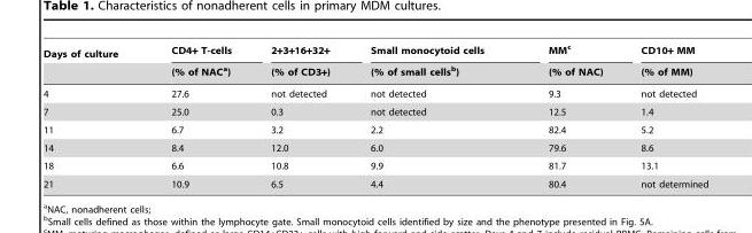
<table><thead><tr><td rowspan="2">Days of culture</td><td rowspan="2">CD4+ T-cells (% of NAC<sup>a</sup>)</td><td rowspan="2">2+3+16+32+ (% of CD3+)</td><td rowspan="2">Small monocytoid cells (% of small cells<sup>b</sup>)</td><td rowspan="2">MM<sup>c</sup> (% of NAC)</td><td rowspan="2">CD10+ MM (% of MM)</td></tr><tr></tr></thead><tbody><tr><td>4</td><td>27.6</td><td>not detected</td><td>not detected</td><td>9.3</td><td>not detected</td></tr><tr><td>7</td><td>25.0</td><td>0.3</td><td>not detected</td><td>12.5</td><td>1.4</td></tr><tr><td>11</td><td>6.7</td><td>3.2</td><td>2.2</td><td>82.4</td><td>5.2</td></tr><tr><td>14</td><td>8.4</td><td>12.0</td><td>6.0</td><td>79.6</td><td>8.6</td></tr><tr><td>18</td><td>6.6</td><td>10.8</td><td>9.9</td><td>81.7</td><td>13.1</td></tr><tr><td>21</td><td>10.9</td><td>6.5</td><td>4.4</td><td>80.4</td><td>not determined</td></tr></tbody></table>